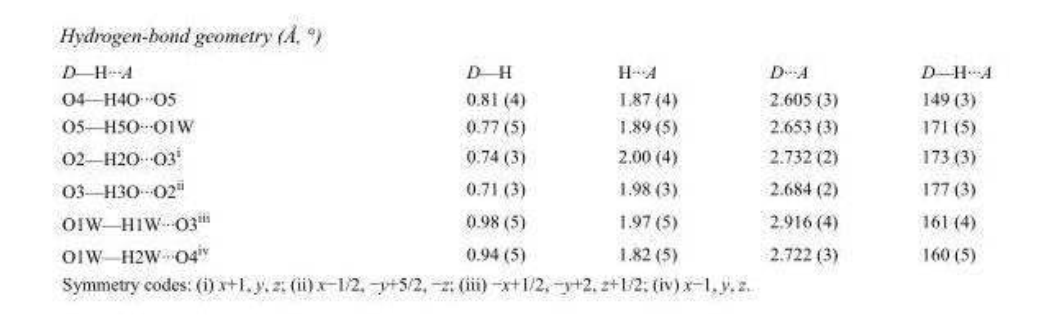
<table><tbody><tr><td>D—H···A</td><td>D—H</td><td>H···A</td><td>D···A</td><td>D—H···A</td></tr><tr><td>O4—H4O···O5</td><td>0.81 (4)</td><td>1.87 (4)</td><td>2.605 (3)</td><td>149 (3)</td></tr><tr><td>O5—H5O···O1W</td><td>0.77 (5)</td><td>1.89 (5)</td><td>2.653 (3)</td><td>171 (5)</td></tr><tr><td>O2—H2O···O3<sup>i</sup></td><td>0.74 (3)</td><td>2.00 (4)</td><td>2.732 (2)</td><td>173 (3)</td></tr><tr><td>O3—H3O···O2<sup>ii</sup></td><td>0.71 (3)</td><td>1.98 (3)</td><td>2.684 (2)</td><td>177 (3)</td></tr><tr><td>O1W—H1W···O3<sup>iii</sup></td><td>0.98 (5)</td><td>1.97 (5)</td><td>2.916 (4)</td><td>161 (4)</td></tr><tr><td>O1W—H2W···O4<sup>iv</sup></td><td>0.94 (5)</td><td>1.82 (5)</td><td>2.722 (3)</td><td>160 (5)</td></tr></tbody></table>